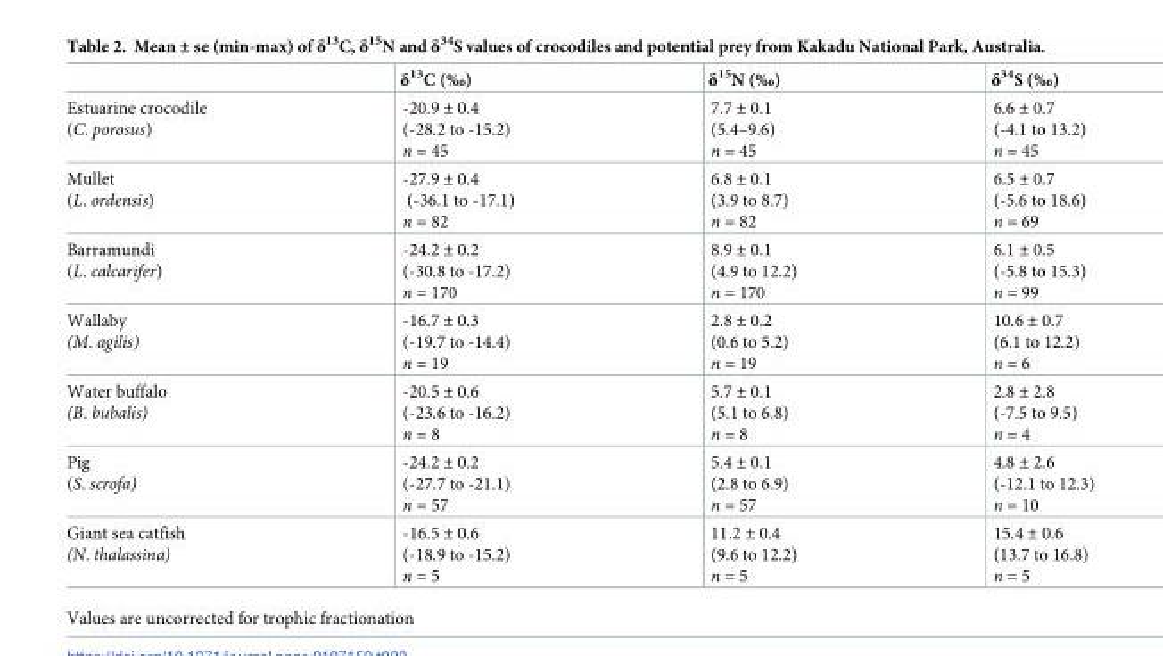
<table><thead><tr><td></td><td>δ<sup>13</sup>C (‰)</td><td>δ<sup>15</sup>N (‰)</td><td>δ<sup>34</sup>S (‰)</td></tr></thead><tbody><tr><td>Estuarine crocodile (C. porosus)</td><td>-20.9 ± 0.4 (-28.2 to -15.2) n = 45</td><td>7.7 ± 0.1 (5.4–9.6) n = 45</td><td>6.6 ± 0.7 (-4.1 to 13.2) n = 45</td></tr><tr><td>Mullet (L. ordensis)</td><td>-27.9 ± 0.4 (-36.1 to -17.1) n = 82</td><td>6.8 ± 0.1 (3.9 to 8.7) n = 82</td><td>6.5 ± 0.7 (-5.6 to 18.6) n = 69</td></tr><tr><td>Barramundi (L. calcarifer)</td><td>-24.2 ± 0.2 (-30.8 to -17.2) n = 170</td><td>8.9 ± 0.1 (4.9 to 12.2) n = 170</td><td>6.1 ± 0.5 (-5.8 to 15.3) n = 99</td></tr><tr><td>Wallaby (M. agilis)</td><td>-16.7 ± 0.3 (-19.7 to -14.4) n = 19</td><td>2.8 ± 0.2 (0.6 to 5.2) n = 19</td><td>10.6 ± 0.7 (6.1 to 12.2) n = 6</td></tr><tr><td>Water buffalo (B. bubalis)</td><td>-20.5 ± 0.6 (-23.6 to -16.2) n = 8</td><td>5.7 ± 0.1 (5.1 to 6.8) n = 8</td><td>2.8 ± 2.8 (-7.5 to 9.5) n = 4</td></tr><tr><td>Pig (S. scrofa)</td><td>-24.2 ± 0.2 (-27.7 to -21.1) n = 57</td><td>5.4 ± 0.1 (2.8 to 6.9) n = 57</td><td>4.8 ± 2.6 (-12.1 to 12.3) n = 10</td></tr><tr><td>Giant sea catfish (N. thalassina)</td><td>-16.5 ± 0.6 (-18.9 to -15.2) n = 5</td><td>11.2 ± 0.4 (9.6 to 12.2) n = 5</td><td>15.4 ± 0.6 (13.7 to 16.8) n = 5</td></tr></tbody></table>